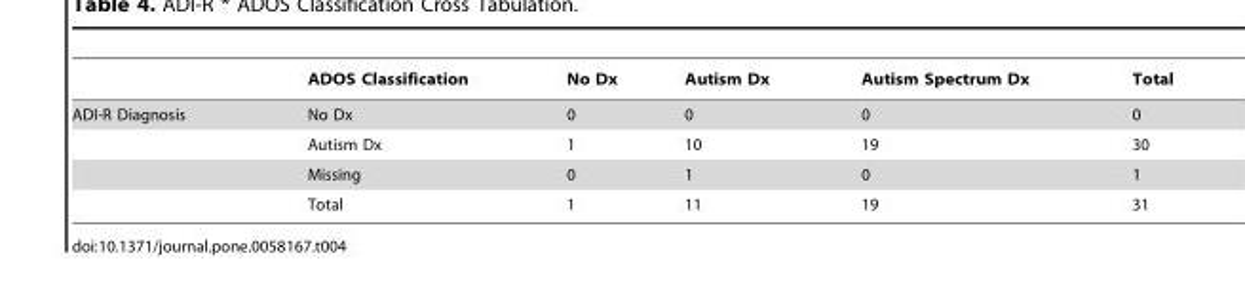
<table><thead><tr><td></td><td>ADOS Classification</td><td>No Dx</td><td>Autism Dx</td><td>Autism Spectrum Dx</td><td>Total</td></tr></thead><tbody><tr><td rowspan="4">ADI-R Diagnosis</td><td>No Dx</td><td>0</td><td>0</td><td>0</td><td>0</td></tr><tr><td>Autism Dx</td><td>1</td><td>10</td><td>19</td><td>30</td></tr><tr><td>Missing</td><td>0</td><td>1</td><td>0</td><td>1</td></tr><tr><td>Total</td><td>1</td><td>11</td><td>19</td><td>31</td></tr></tbody></table>